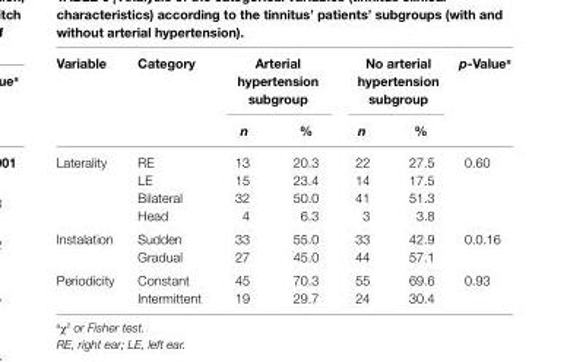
<table><thead><tr><td rowspan="2">Variable</td><td rowspan="2">category</td><td colspan="2">arterial hypertension subgroup</td><td colspan="2">no arterial hypertension subgroup</td><td rowspan="2">p-Value<sup>a</sup></td></tr><tr><td>n</td><td>%</td><td>n</td><td>%</td></tr></thead><tbody><tr><td rowspan="4">Laterality</td><td>RE</td><td>13</td><td>20.3</td><td>22</td><td>27.5</td><td rowspan="4">0.60</td></tr><tr><td>LE</td><td>15</td><td>23.4</td><td>14</td><td>17.5</td></tr><tr><td>Bilateral</td><td>32</td><td>50.0</td><td>41</td><td>51.3</td></tr><tr><td>Head</td><td>4</td><td>6.3</td><td>3</td><td>3.8</td></tr><tr><td rowspan="2">Instalation</td><td>Sudden</td><td>33</td><td>55.0</td><td>33</td><td>42.9</td><td rowspan="2">0.0.16</td></tr><tr><td>Gradual</td><td>27</td><td>45.0</td><td>44</td><td>57.1</td></tr><tr><td rowspan="2">Periodicity</td><td>Constant</td><td>45</td><td>70.3</td><td>55</td><td>69.6</td><td rowspan="2">0.93</td></tr><tr><td>Intermittent</td><td>19</td><td>29.7</td><td>24</td><td>30.4</td></tr></tbody></table>